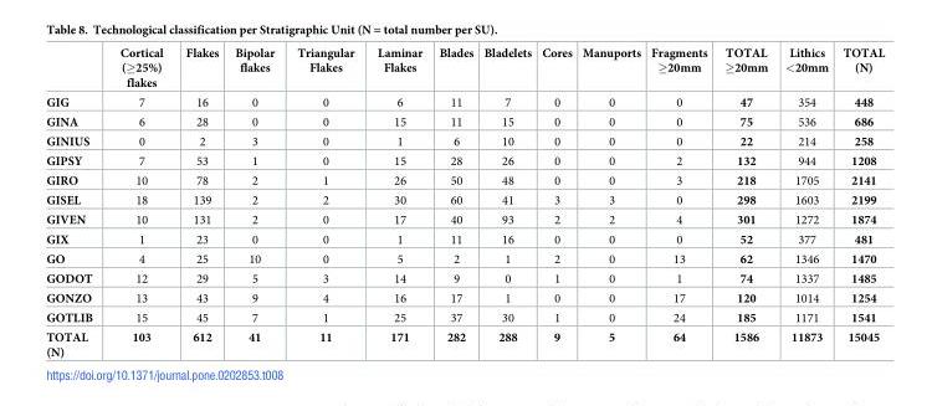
<table><thead><tr><td></td><td>Cortical (≥25%) flakes</td><td>Flakes</td><td>Bipolar flakes</td><td>Triangular Flakes</td><td>Laminar Flakes</td><td>Blades</td><td>Bladelets</td><td>Cores</td><td>Manuports</td><td>Fragments ≥20mm</td><td>TOTAL ≥20mm</td><td>Lithics &lt;20mm</td><td>TOTAL (N)</td></tr></thead><tbody><tr><td>GIG</td><td>7</td><td>16</td><td>0</td><td>0</td><td>6</td><td>11</td><td>7</td><td>0</td><td>0</td><td>0</td><td>47</td><td>354</td><td>448</td></tr><tr><td>GINA</td><td>6</td><td>28</td><td>0</td><td>0</td><td>15</td><td>11</td><td>15</td><td>0</td><td>0</td><td>0</td><td>75</td><td>536</td><td>686</td></tr><tr><td>GINIUS</td><td>0</td><td>2</td><td>3</td><td>0</td><td>1</td><td>6</td><td>10</td><td>0</td><td>0</td><td>0</td><td>22</td><td>214</td><td>258</td></tr><tr><td>GIPSY</td><td>7</td><td>53</td><td>1</td><td>0</td><td>15</td><td>28</td><td>26</td><td>0</td><td>0</td><td>2</td><td>132</td><td>944</td><td>1208</td></tr><tr><td>GIRO</td><td>10</td><td>78</td><td>2</td><td>1</td><td>26</td><td>50</td><td>48</td><td>0</td><td>0</td><td>3</td><td>218</td><td>1705</td><td>2141</td></tr><tr><td>GISEL</td><td>18</td><td>139</td><td>2</td><td>2</td><td>30</td><td>60</td><td>41</td><td>3</td><td>3</td><td>0</td><td>298</td><td>1603</td><td>2199</td></tr><tr><td>GIVEN</td><td>10</td><td>131</td><td>2</td><td>0</td><td>17</td><td>40</td><td>93</td><td>2</td><td>2</td><td>4</td><td>301</td><td>1272</td><td>1874</td></tr><tr><td>GIX</td><td>1</td><td>23</td><td>0</td><td>0</td><td>1</td><td>11</td><td>16</td><td>0</td><td>0</td><td>0</td><td>52</td><td>377</td><td>481</td></tr><tr><td>GO</td><td>4</td><td>25</td><td>10</td><td>0</td><td>5</td><td>2</td><td>1</td><td>2</td><td>0</td><td>13</td><td>62</td><td>1346</td><td>1470</td></tr><tr><td>GODOT</td><td>12</td><td>29</td><td>5</td><td>3</td><td>14</td><td>9</td><td>0</td><td>1</td><td>0</td><td>1</td><td>74</td><td>1337</td><td>1485</td></tr><tr><td>GONZO</td><td>13</td><td>43</td><td>9</td><td>4</td><td>16</td><td>17</td><td>1</td><td>0</td><td>0</td><td>17</td><td>120</td><td>1014</td><td>1254</td></tr><tr><td>GOTLIB</td><td>15</td><td>45</td><td>7</td><td>1</td><td>25</td><td>37</td><td>30</td><td>1</td><td>0</td><td>24</td><td>185</td><td>1171</td><td>1541</td></tr><tr><td>TOTAL (N)</td><td>103</td><td>612</td><td>41</td><td>11</td><td>171</td><td>282</td><td>288</td><td>9</td><td>5</td><td>64</td><td>1586</td><td>11873</td><td>15045</td></tr></tbody></table>